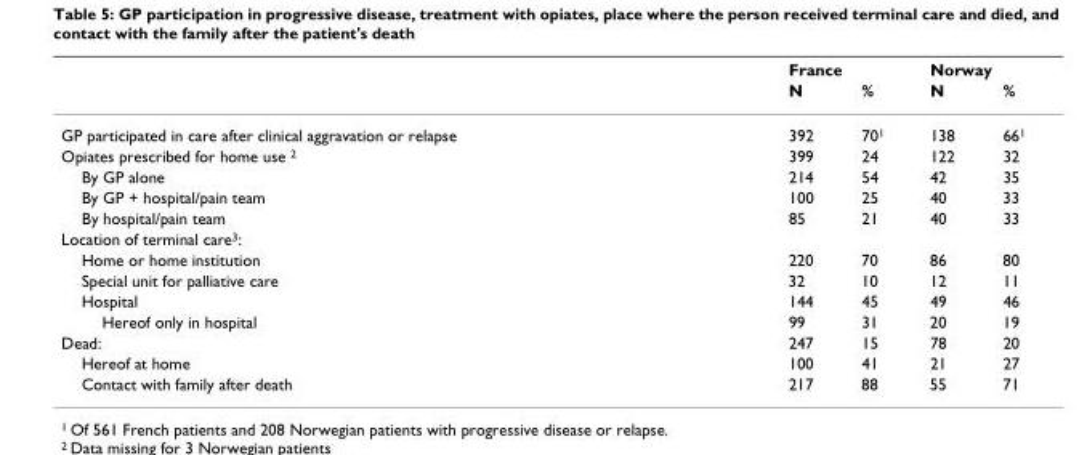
<table><thead><tr><td rowspan="2"></td><td colspan="2">France</td><td colspan="2">Norway</td></tr><tr><td>N</td><td>%</td><td>N</td><td>%</td></tr></thead><tbody><tr><td>GP participated in care after clinical aggravation or relapse</td><td>392</td><td>70<sup>1</sup></td><td>138</td><td>66<sup>1</sup></td></tr><tr><td>Opiates prescribed for home use <sup>2</sup></td><td>399</td><td>24</td><td>122</td><td>32</td></tr><tr><td>By GP alone</td><td>214</td><td>54</td><td>42</td><td>35</td></tr><tr><td>By GP + hospital/pain team</td><td>100</td><td>25</td><td>40</td><td>33</td></tr><tr><td>By hospital/pain team</td><td>85</td><td>21</td><td>40</td><td>33</td></tr><tr><td colspan="5">Location of terminal care<sup>3</sup>:</td></tr><tr><td>Home or home institution</td><td>220</td><td>70</td><td>86</td><td>80</td></tr><tr><td>Special unit for palliative care</td><td>32</td><td>10</td><td>12</td><td>11</td></tr><tr><td>Hospital</td><td>144</td><td>45</td><td>49</td><td>46</td></tr><tr><td>Hereof only in hospital</td><td>99</td><td>31</td><td>20</td><td>19</td></tr><tr><td>Dead:</td><td>247</td><td>15</td><td>78</td><td>20</td></tr><tr><td>Hereof at home</td><td>100</td><td>41</td><td>21</td><td>27</td></tr><tr><td>Contact with family after death</td><td>217</td><td>88</td><td>55</td><td>71</td></tr></tbody></table>